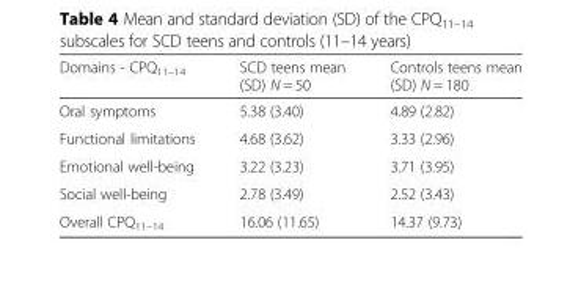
<table><thead><tr><td>Domains - CPQ<sub>11–14</sub></td><td>SCD teens mean (SD) N = 50</td><td>Controls teens mean (SD) N = 180</td></tr></thead><tbody><tr><td>Oral symptoms</td><td>5.38 (3.40)</td><td>4.89 (2.82)</td></tr><tr><td>Functional limitations</td><td>4.68 (3.62)</td><td>3.33 (2.96)</td></tr><tr><td>Emotional well-being</td><td>3.22 (3.23)</td><td>3.71 (3.95)</td></tr><tr><td>Social well-being</td><td>2.78 (3.49)</td><td>2.52 (3.43)</td></tr><tr><td>Overall CPQ<sub>11–14</sub></td><td>16.06 (11.65)</td><td>14.37 (9.73)</td></tr></tbody></table>